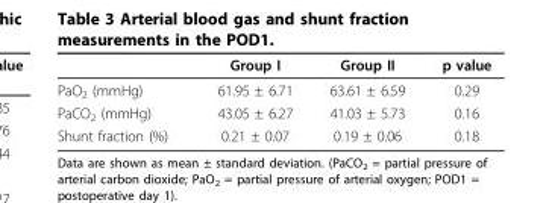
<table><thead><tr><td></td><td>Group I</td><td>Group II</td><td>p value</td></tr></thead><tbody><tr><td>PaO<sub>2</sub> (mmHg)</td><td>61.95 ± 6.71</td><td>63.61 ± 6.59</td><td>0.29</td></tr><tr><td>PaCO<sub>2</sub> (mmHg)</td><td>43.05 ± 6.27</td><td>41.03 ± 5.73</td><td>0.16</td></tr><tr><td>Shunt fraction (%)</td><td>0.21 ± 0.07</td><td>0.19 ± 0.06</td><td>0.18</td></tr></tbody></table>